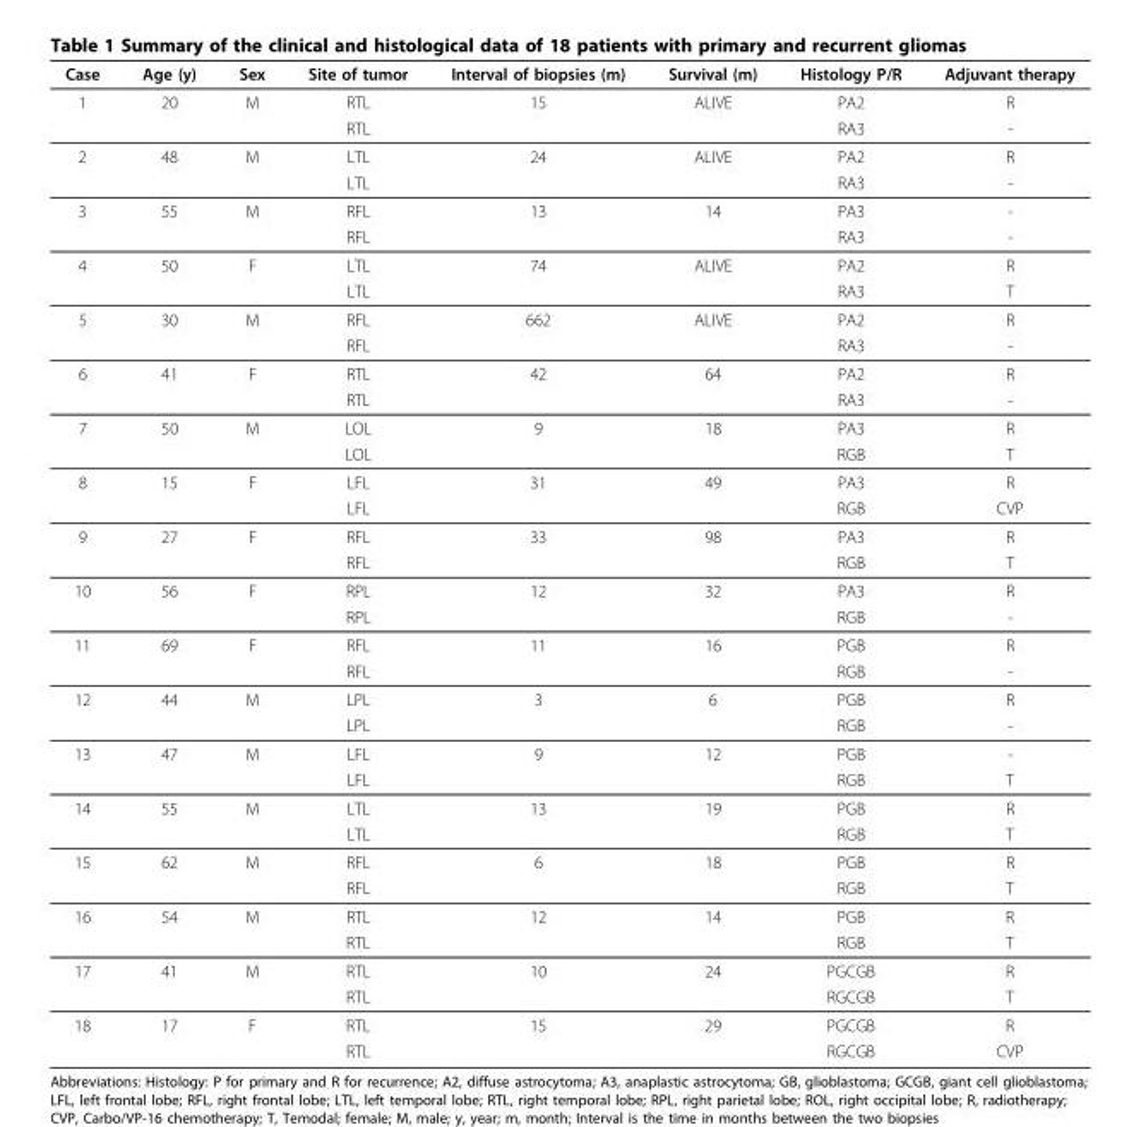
<table><thead><tr><td>Case</td><td>Age (y)</td><td>Sex</td><td>Site of tumor</td><td>Interval of biopsies (m)</td><td>Survival (m)</td><td>Histology P/R</td><td>Adjuvant therapy</td></tr></thead><tbody><tr><td rowspan="2">1</td><td>20</td><td>M</td><td>RTL</td><td>15</td><td>ALIVE</td><td>PA2</td><td>R</td></tr><tr><td></td><td></td><td>RTL</td><td></td><td></td><td>RA3</td><td>-</td></tr><tr><td rowspan="2">2</td><td>48</td><td>M</td><td>LTL</td><td>24</td><td>ALIVE</td><td>PA2</td><td>R</td></tr><tr><td></td><td></td><td>LTL</td><td></td><td></td><td>RA3</td><td>-</td></tr><tr><td rowspan="2">3</td><td>55</td><td>M</td><td>RFL</td><td>13</td><td>14</td><td>PA3</td><td>-</td></tr><tr><td></td><td></td><td>RFL</td><td></td><td></td><td>RA3</td><td>-</td></tr><tr><td rowspan="2">4</td><td>50</td><td>F</td><td>LTL</td><td>74</td><td>ALIVE</td><td>PA2</td><td>R</td></tr><tr><td></td><td></td><td>LTL</td><td></td><td></td><td>RA3</td><td>T</td></tr><tr><td rowspan="2">5</td><td>30</td><td>M</td><td>RFL</td><td>662</td><td>ALIVE</td><td>PA2</td><td>R</td></tr><tr><td></td><td></td><td>RFL</td><td></td><td></td><td>RA3</td><td>-</td></tr><tr><td rowspan="2">6</td><td>41</td><td>F</td><td>RTL</td><td>42</td><td>64</td><td>PA2</td><td>R</td></tr><tr><td></td><td></td><td>RTL</td><td></td><td></td><td>RA3</td><td>-</td></tr><tr><td rowspan="2">7</td><td>50</td><td>M</td><td>LOL</td><td>9</td><td>18</td><td>PA3</td><td>R</td></tr><tr><td></td><td></td><td>LOL</td><td></td><td></td><td>RGB</td><td>T</td></tr><tr><td rowspan="2">8</td><td>15</td><td>F</td><td>LFL</td><td>31</td><td>49</td><td>PA3</td><td>R</td></tr><tr><td></td><td></td><td>LFL</td><td></td><td></td><td>RGB</td><td>CVP</td></tr><tr><td rowspan="2">9</td><td>27</td><td>F</td><td>RFL</td><td>33</td><td>98</td><td>PA3</td><td>R</td></tr><tr><td></td><td></td><td>RFL</td><td></td><td></td><td>RGB</td><td>T</td></tr><tr><td rowspan="2">10</td><td>56</td><td>F</td><td>RPL</td><td>12</td><td>32</td><td>PA3</td><td>R</td></tr><tr><td></td><td></td><td>RPL</td><td></td><td></td><td>RGB</td><td>-</td></tr><tr><td rowspan="2">11</td><td>69</td><td>F</td><td>RFL</td><td>11</td><td>16</td><td>PGB</td><td>R</td></tr><tr><td></td><td></td><td>RFL</td><td></td><td></td><td>RGB</td><td>-</td></tr><tr><td rowspan="2">12</td><td>44</td><td>M</td><td>LPL</td><td>3</td><td>6</td><td>PGB</td><td>R</td></tr><tr><td></td><td></td><td>LPL</td><td></td><td></td><td>RGB</td><td>-</td></tr><tr><td rowspan="2">13</td><td>47</td><td>M</td><td>LFL</td><td>9</td><td>12</td><td>PGB</td><td>-</td></tr><tr><td></td><td></td><td>LFL</td><td></td><td></td><td>RGB</td><td>T</td></tr><tr><td rowspan="2">14</td><td>55</td><td>M</td><td>LTL</td><td>13</td><td>19</td><td>PGB</td><td>R</td></tr><tr><td></td><td></td><td>LTL</td><td></td><td></td><td>RGB</td><td>T</td></tr><tr><td rowspan="2">15</td><td>62</td><td>M</td><td>RFL</td><td>6</td><td>18</td><td>PGB</td><td>R</td></tr><tr><td></td><td></td><td>RFL</td><td></td><td></td><td>RGB</td><td>T</td></tr><tr><td rowspan="2">16</td><td>54</td><td>M</td><td>RTL</td><td>12</td><td>14</td><td>PGB</td><td>R</td></tr><tr><td></td><td></td><td>RTL</td><td></td><td></td><td>RGB</td><td>T</td></tr><tr><td rowspan="2">17</td><td>41</td><td>M</td><td>RTL</td><td>10</td><td>24</td><td>PGCGB</td><td>R</td></tr><tr><td></td><td></td><td>RTL</td><td></td><td></td><td>RGCGB</td><td>T</td></tr><tr><td rowspan="2">18</td><td>17</td><td>F</td><td>RTL</td><td>15</td><td>29</td><td>PGCGB</td><td>R</td></tr><tr><td></td><td></td><td>RTL</td><td></td><td></td><td>RGCGB</td><td>CVP</td></tr></tbody></table>